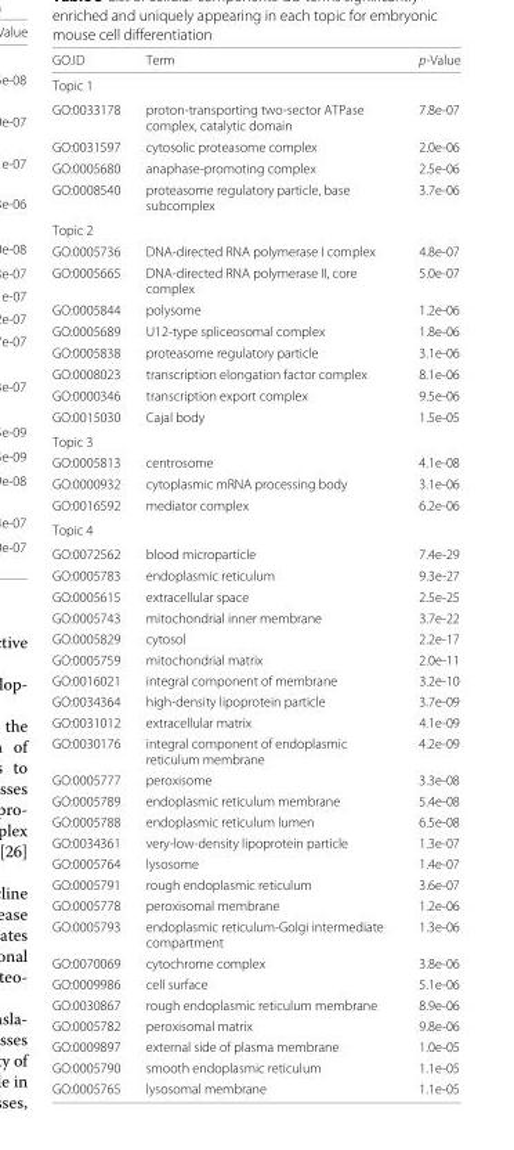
<table><thead><tr><td>GO.ID</td><td>Term</td><td>p-Value</td></tr></thead><tbody><tr><td colspan="3">Topic 1</td></tr><tr><td>GO:0033178</td><td>proton-transporting two-sector ATPase complex, catalytic domain</td><td>7.8e-07</td></tr><tr><td>GO:0031597</td><td>cytosolic proteasome complex</td><td>2.0e-06</td></tr><tr><td>GO:0005680</td><td>anaphase-promoting complex</td><td>2.5e-06</td></tr><tr><td>GO:0008540</td><td>proteasome regulatory particle, base subcomplex</td><td>3.7e-06</td></tr><tr><td colspan="3">Topic 2</td></tr><tr><td>GO:0005736</td><td>DNA-directed RNA polymerase I complex</td><td>4.8e-07</td></tr><tr><td>GO:0005665</td><td>DNA-directed RNA polymerase II, core complex</td><td>5.0e-07</td></tr><tr><td>GO:0005844</td><td>polysome</td><td>1.2e-06</td></tr><tr><td>GO:0005689</td><td>U12-type spliceosomal complex</td><td>1.8e-06</td></tr><tr><td>GO:0005838</td><td>proteasome regulatory particle</td><td>3.1e-06</td></tr><tr><td>GO:0008023</td><td>transcription elongation factor complex</td><td>8.1e-06</td></tr><tr><td>GO:0000346</td><td>transcription export complex</td><td>9.5e-06</td></tr><tr><td>GO:0015030</td><td>Cajal body</td><td>1.5e-05</td></tr><tr><td colspan="3">Topic 3</td></tr><tr><td>GO:0005813</td><td>centrosome</td><td>4.1e-08</td></tr><tr><td>GO:0000932</td><td>cytoplasmic mRNA processing body</td><td>3.1e-06</td></tr><tr><td>GO:0016592</td><td>mediator complex</td><td>6.2e-06</td></tr><tr><td colspan="3">Topic 4</td></tr><tr><td>GO:0072562</td><td>blood microparticle</td><td>7.4e-29</td></tr><tr><td>GO:0005783</td><td>endoplasmic reticulum</td><td>9.3e-27</td></tr><tr><td>GO:0005615</td><td>extracellular space</td><td>2.5e-25</td></tr><tr><td>GO:0005743</td><td>mitochondrial inner membrane</td><td>3.7e-22</td></tr><tr><td>GO:0005829</td><td>cytosol</td><td>2.2e-17</td></tr><tr><td>GO:0005759</td><td>mitochondrial matrix</td><td>2.0e-11</td></tr><tr><td>GO:0016021</td><td>integral component of membrane</td><td>3.2e-10</td></tr><tr><td>GO:0034364</td><td>high-density lipoprotein particle</td><td>3.7e-09</td></tr><tr><td>GO:0031012</td><td>extracellular matrix</td><td>4.1e-09</td></tr><tr><td>GO:0030176</td><td>integral component of endoplasmic reticulum membrane</td><td>4.2e-09</td></tr><tr><td>GO:0005777</td><td>peroxisome</td><td>3.3e-08</td></tr><tr><td>GO:0005789</td><td>endoplasmic reticulum membrane</td><td>5.4e-08</td></tr><tr><td>GO:0005788</td><td>endoplasmic reticulum lumen</td><td>6.5e-08</td></tr><tr><td>GO:0034361</td><td>very-low-density lipoprotein particle</td><td>1.3e-07</td></tr><tr><td>GO:0005764</td><td>lysosome</td><td>1.4e-07</td></tr><tr><td>GO:0005791</td><td>rough endoplasmic reticulum</td><td>3.6e-07</td></tr><tr><td>GO:0005778</td><td>peroxisomal membrane</td><td>1.2e-06</td></tr><tr><td>GO:0005793</td><td>endoplasmic reticulum-Golgi intermediate compartment</td><td>1.3e-06</td></tr><tr><td>GO:0070069</td><td>cytochrome complex</td><td>3.8e-06</td></tr><tr><td>GO:0009986</td><td>cell surface</td><td>5.1e-06</td></tr><tr><td>GO:0030867</td><td>rough endoplasmic reticulum membrane</td><td>8.9e-06</td></tr><tr><td>GO:0005782</td><td>peroxisomal matrix</td><td>9.8e-06</td></tr><tr><td>GO:0009897</td><td>external side of plasma membrane</td><td>1.0e-05</td></tr><tr><td>GO:0005790</td><td>smooth endoplasmic reticulum</td><td>1.1e-05</td></tr><tr><td>GO:0005765</td><td>lysosomal membrane</td><td>1.1e-05</td></tr></tbody></table>